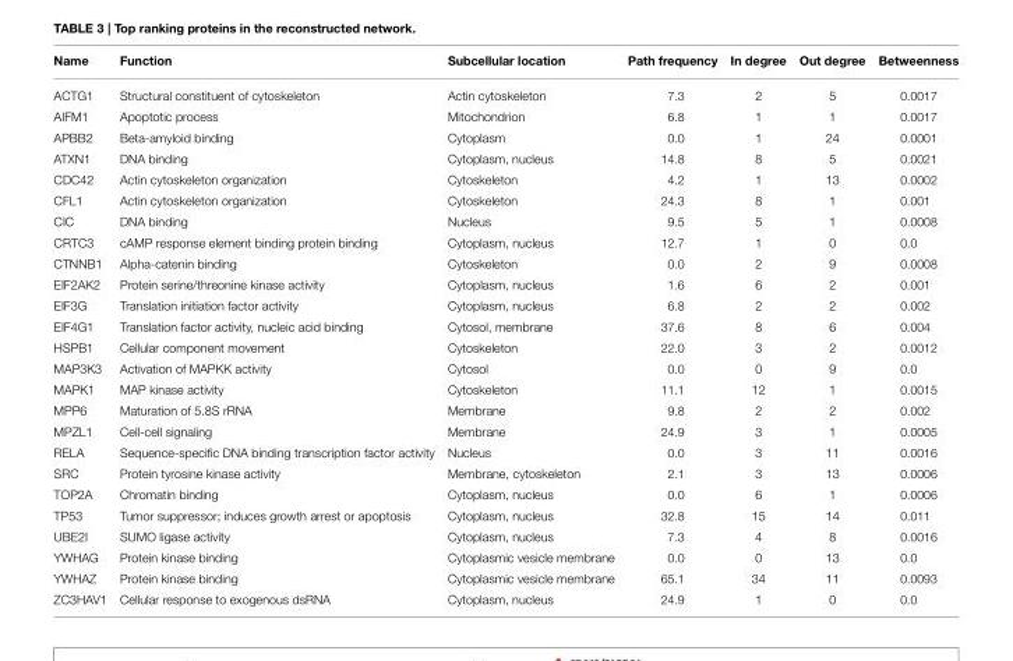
<table><thead><tr><td>Name</td><td>Function</td><td>Subcellular location</td><td>Path frequency</td><td>In degree</td><td>Out degree</td><td>Betweenness</td></tr></thead><tbody><tr><td>ACTG1</td><td>Structural constituent of cytoskeleton</td><td>Actin cytoskeleton</td><td>7.3</td><td>2</td><td>5</td><td>0.0017</td></tr><tr><td>AIFM1</td><td>Apoptotic process</td><td>Mitochondrion</td><td>6.8</td><td>1</td><td>1</td><td>0.0017</td></tr><tr><td>APBB2</td><td>Beta-amyloid binding</td><td>Cytoplasm</td><td>0.0</td><td>1</td><td>24</td><td>0.0001</td></tr><tr><td>ATXN1</td><td>DNA binding</td><td>Cytoplasm, nucleus</td><td>14.8</td><td>8</td><td>5</td><td>0.0021</td></tr><tr><td>CDC42</td><td>Actin cytoskeleton organization</td><td>Cytoskeleton</td><td>4.2</td><td>1</td><td>13</td><td>0.0002</td></tr><tr><td>CFL1</td><td>Actin cytoskeleton organization</td><td>Cytoskeleton</td><td>24.3</td><td>8</td><td>1</td><td>0.001</td></tr><tr><td>CIC</td><td>DNA binding</td><td>Nucleus</td><td>9.5</td><td>5</td><td>1</td><td>0.0008</td></tr><tr><td>CRTC3</td><td>cAMP response element binding protein binding</td><td>Cytoplasm, nucleus</td><td>12.7</td><td>1</td><td>0</td><td>0.0</td></tr><tr><td>CTNNB1</td><td>Alpha-catenin binding</td><td>Cytoskeleton</td><td>0.0</td><td>2</td><td>9</td><td>0.0008</td></tr><tr><td>EIF2AK2</td><td>Protein serine/threonine kinase activity</td><td>Cytoplasm, nucleus</td><td>1.6</td><td>6</td><td>2</td><td>0.001</td></tr><tr><td>EIF3G</td><td>Translation initiation factor activity</td><td>Cytoplasm, nucleus</td><td>6.8</td><td>2</td><td>2</td><td>0.002</td></tr><tr><td>EIF4G1</td><td>Translation factor activity, nucleic acid binding</td><td>Cytosol, membrane</td><td>37.6</td><td>8</td><td>6</td><td>0.004</td></tr><tr><td>HSPB1</td><td>Cellular component movement</td><td>Cytoskeleton</td><td>22.0</td><td>3</td><td>2</td><td>0.0012</td></tr><tr><td>MAP3K3</td><td>Activation of MAPKK activity</td><td>Cytosol</td><td>0.0</td><td>0</td><td>9</td><td>0.0</td></tr><tr><td>MAPK1</td><td>MAP kinase activity</td><td>Cytoskeleton</td><td>11.1</td><td>12</td><td>1</td><td>0.0015</td></tr><tr><td>MPP6</td><td>Maturation of 5.8S rRNA</td><td>Membrane</td><td>9.8</td><td>2</td><td>2</td><td>0.002</td></tr><tr><td>MPZL1</td><td>Cell-cell signaling</td><td>Membrane</td><td>24.9</td><td>3</td><td>1</td><td>0.0005</td></tr><tr><td>RELA</td><td>Sequence-specific DNA binding transcription factor activity</td><td>Nucleus</td><td>0.0</td><td>3</td><td>11</td><td>0.0016</td></tr><tr><td>SRC</td><td>Protein tyrosine kinase activity</td><td>Membrane, cytoskeleton</td><td>2.1</td><td>3</td><td>13</td><td>0.0006</td></tr><tr><td>TOP2A</td><td>Chromatin binding</td><td>Cytoplasm, nucleus</td><td>0.0</td><td>6</td><td>1</td><td>0.0006</td></tr><tr><td>TP53</td><td>Tumor suppressor; induces growth arrest or apoptosis</td><td>Cytoplasm, nucleus</td><td>32.8</td><td>15</td><td>14</td><td>0.011</td></tr><tr><td>UBE2I</td><td>SUMO ligase activity</td><td>Cytoplasm, nucleus</td><td>7.3</td><td>4</td><td>8</td><td>0.0016</td></tr><tr><td>YWHAG</td><td>Protein kinase binding</td><td>Cytoplasmic vesicle membrane</td><td>0.0</td><td>0</td><td>13</td><td>0.0</td></tr><tr><td>YWHAZ</td><td>Protein kinase binding</td><td>Cytoplasmic vesicle membrane</td><td>65.1</td><td>34</td><td>11</td><td>0.0093</td></tr><tr><td>ZC3HAV1</td><td>Cellular response to exogenous dsRNA</td><td>Cytoplasm, nucleus</td><td>24.9</td><td>1</td><td>0</td><td>0.0</td></tr></tbody></table>